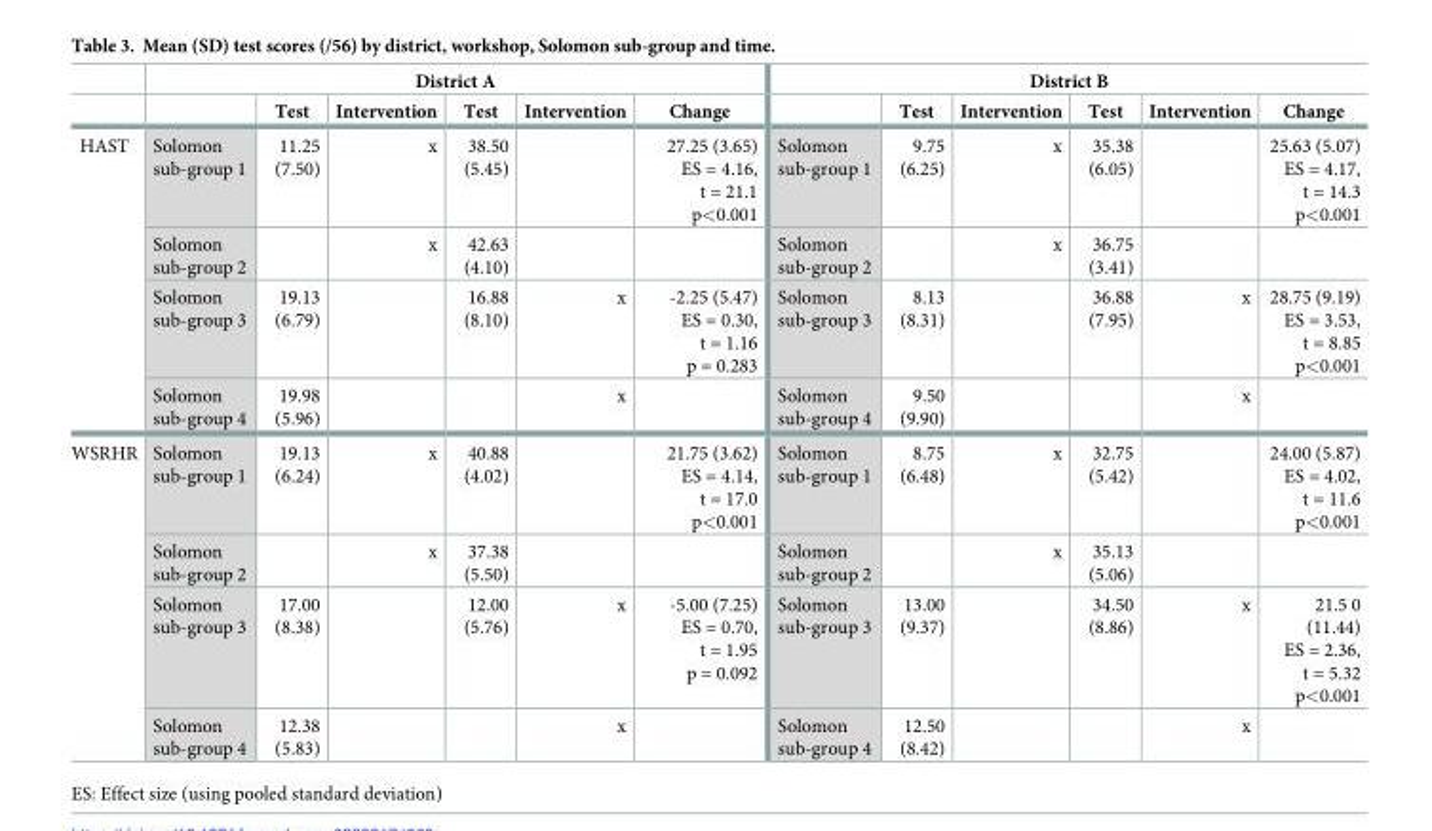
<table><thead><tr><td rowspan="2"></td><td colspan="6">District A</td><td colspan="6">District B</td></tr><tr><td></td><td>Test</td><td>Intervention</td><td>Test</td><td>Intervention</td><td>Change</td><td></td><td>Test</td><td>Intervention</td><td>Test</td><td>Intervention</td><td>Change</td></tr></thead><tbody><tr><td rowspan="4">HAST</td><td>Solomon sub-group 1</td><td>11.25 (7.50)</td><td>x</td><td>38.50 (5.45)</td><td></td><td>27.25 (3.65) ES = 4.16, t = 21.1 p&lt;0.001</td><td>Solomon sub-group 1</td><td>9.75 (6.25)</td><td>x</td><td>35.38 (6.05)</td><td></td><td>25.63 (5.07) ES = 4.17, t = 14.3 p&lt;0.001</td></tr><tr><td>Solomon sub-group 2</td><td></td><td>x</td><td>42.63 (4.10)</td><td></td><td></td><td>Solomon sub-group 2</td><td></td><td>x</td><td>36.75 (3.41)</td><td></td><td></td></tr><tr><td>Solomon sub-group 3</td><td>19.13 (6.79)</td><td></td><td>16.88 (8.10)</td><td>x</td><td>-2.25 (5.47) ES = 0.30, t = 1.16 p = 0.283</td><td>Solomon sub-group 3</td><td>8.13 (8.31)</td><td></td><td>36.88 (7.95)</td><td>x</td><td>28.75 (9.19) ES = 3.53, t = 8.85 p&lt;0.001</td></tr><tr><td>Solomon sub-group 4</td><td>19.98 (5.96)</td><td></td><td></td><td>x</td><td></td><td>Solomon sub-group 4</td><td>9.50 (9.90)</td><td></td><td></td><td>x</td><td></td></tr><tr><td rowspan="4">WSRHR</td><td>Solomon sub-group 1</td><td>19.13 (6.24)</td><td>x</td><td>40.88 (4.02)</td><td></td><td>21.75 (3.62) ES = 4.14, t = 17.0 p&lt;0.001</td><td>Solomon sub-group 1</td><td>8.75 (6.48)</td><td>x</td><td>32.75 (5.42)</td><td></td><td>24.00 (5.87) ES = 4.02, t = 11.6 p&lt;0.001</td></tr><tr><td>Solomon sub-group 2</td><td></td><td>x</td><td>37.38 (5.50)</td><td></td><td></td><td>Solomon sub-group 2</td><td></td><td>x</td><td>35.13 (5.06)</td><td></td><td></td></tr><tr><td>Solomon sub-group 3</td><td>17.00 (8.38)</td><td></td><td>12.00 (5.76)</td><td>x</td><td>-5.00 (7.25) ES = 0.70, t = 1.95 p = 0.092</td><td>Solomon sub-group 3</td><td>13.00 (9.37)</td><td></td><td>34.50 (8.86)</td><td>x</td><td>21.5 0 (11.44) ES = 2.36, t = 5.32 p&lt;0.001</td></tr><tr><td>Solomon sub-group 4</td><td>12.38 (5.83)</td><td></td><td></td><td>x</td><td></td><td>Solomon sub-group 4</td><td>12.50 (8.42)</td><td></td><td></td><td>x</td><td></td></tr></tbody></table>